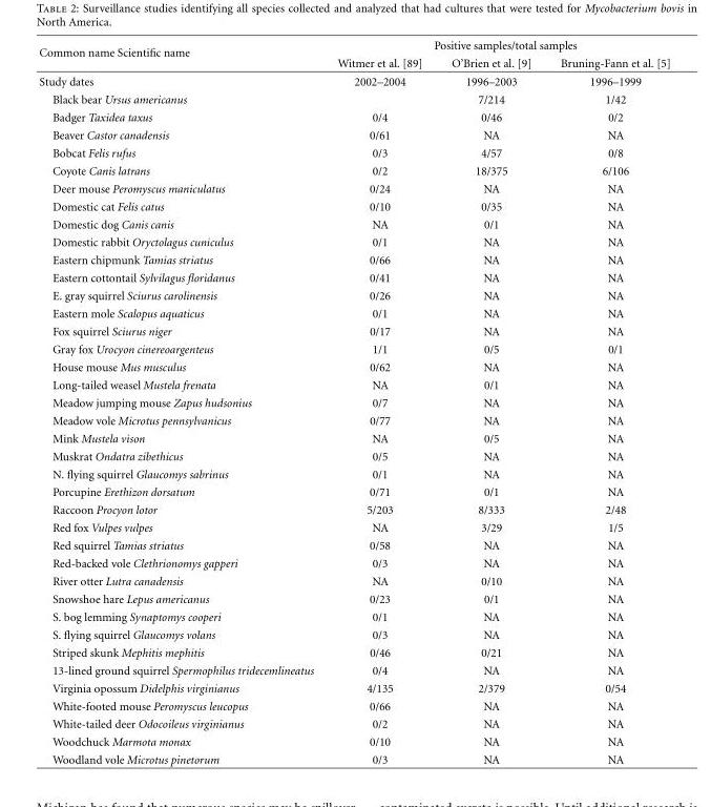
<table><thead><tr><td rowspan="2">Common name Scientific name</td><td colspan="3">Positive samples/total samples</td></tr><tr><td>Witmer et al. [89]</td><td>O’Brien et al. [9]</td><td>Bruning-Fann et al. [5]</td></tr></thead><tbody><tr><td>Study dates</td><td>2002–2004</td><td>1996–2003</td><td>1996–1999</td></tr><tr><td>Black bear Ursus americanus</td><td></td><td>7/214</td><td>1/42</td></tr><tr><td>Badger Taxidea taxus</td><td>0/4</td><td>0/46</td><td>0/2</td></tr><tr><td>Beaver Castor canadensis</td><td>0/61</td><td>NA</td><td>NA</td></tr><tr><td>Bobcat Felis rufus</td><td>0/3</td><td>4/57</td><td>0/8</td></tr><tr><td>Coyote Canis latrans</td><td>0/2</td><td>18/375</td><td>6/106</td></tr><tr><td>Deer mouse Peromyscus maniculatus</td><td>0/24</td><td>NA</td><td>NA</td></tr><tr><td>Domestic cat Felis catus</td><td>0/10</td><td>0/35</td><td>NA</td></tr><tr><td>Domestic dog Canis canis</td><td>NA</td><td>0/1</td><td>NA</td></tr><tr><td>Domestic rabbit Oryctolagus cuniculus</td><td>0/1</td><td>NA</td><td>NA</td></tr><tr><td>Eastern chipmunk Tamias striatus</td><td>0/66</td><td>NA</td><td>NA</td></tr><tr><td>Eastern cottontail Sylvilagus floridanus</td><td>0/41</td><td>NA</td><td>NA</td></tr><tr><td>E. gray squirrel Sciurus carolinensis</td><td>0/26</td><td>NA</td><td>NA</td></tr><tr><td>Eastern mole Scalopus aquaticus</td><td>0/1</td><td>NA</td><td>NA</td></tr><tr><td>Fox squirrel Sciurus niger</td><td>0/17</td><td>NA</td><td>NA</td></tr><tr><td>Gray fox Urocyon cinereoargenteus</td><td>1/1</td><td>0/5</td><td>0/1</td></tr><tr><td>House mouse Mus musculus</td><td>0/62</td><td>NA</td><td>NA</td></tr><tr><td>Long-tailed weasel Mustela frenata</td><td>NA</td><td>0/1</td><td>NA</td></tr><tr><td>Meadow jumping mouse Zapus hudsonius</td><td>0/7</td><td>NA</td><td>NA</td></tr><tr><td>Meadow vole Microtus pennsylvanicus</td><td>0/77</td><td>NA</td><td>NA</td></tr><tr><td>Mink Mustela vison</td><td>NA</td><td>0/5</td><td>NA</td></tr><tr><td>Muskrat Ondatra zibethicus</td><td>0/5</td><td>NA</td><td>NA</td></tr><tr><td>N. flying squirrel Glaucomys sabrinus</td><td>0/1</td><td>NA</td><td>NA</td></tr><tr><td>Porcupine Erethizon dorsatum</td><td>0/71</td><td>0/1</td><td>NA</td></tr><tr><td>Raccoon Procyon lotor</td><td>5/203</td><td>8/333</td><td>2/48</td></tr><tr><td>Red fox Vulpes vulpes</td><td>NA</td><td>3/29</td><td>1/5</td></tr><tr><td>Red squirrel Tamias striatus</td><td>0/58</td><td>NA</td><td>NA</td></tr><tr><td>Red-backed vole Clethrionomys gapperi</td><td>0/3</td><td>NA</td><td>NA</td></tr><tr><td>River otter Lutra canadensis</td><td>NA</td><td>0/10</td><td>NA</td></tr><tr><td>Snowshoe hare Lepus americanus</td><td>0/23</td><td>0/1</td><td>NA</td></tr><tr><td>S. bog lemming Synaptomys cooperi</td><td>0/1</td><td>NA</td><td>NA</td></tr><tr><td>S. flying squirrel Glaucomys volans</td><td>0/3</td><td>NA</td><td>NA</td></tr><tr><td>Striped skunk Mephitis mephitis</td><td>0/46</td><td>0/21</td><td>NA</td></tr><tr><td>13-lined ground squirrel Spermophilus tridecemlineatus</td><td>0/4</td><td>NA</td><td>NA</td></tr><tr><td>Virginia opossum Didelphis virginianus</td><td>4/135</td><td>2/379</td><td>0/54</td></tr><tr><td>White-footed mouse Peromyscus leucopus</td><td>0/66</td><td>NA</td><td>NA</td></tr><tr><td>White-tailed deer Odocoileus virginianus</td><td>0/2</td><td>NA</td><td>NA</td></tr><tr><td>Woodchuck Marmota monax</td><td>0/10</td><td>NA</td><td>NA</td></tr><tr><td>Woodland vole Microtus pinetorum</td><td>0/3</td><td>NA</td><td>NA</td></tr></tbody></table>